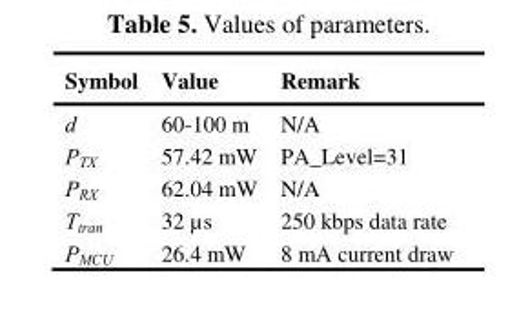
<table><thead><tr><td>Symbol</td><td>Value</td><td>Remark</td></tr></thead><tbody><tr><td>d</td><td>60-100 m</td><td>N/A</td></tr><tr><td>P<sub>TX</sub></td><td>57.42 mW</td><td>PA_Level=31</td></tr><tr><td>P<sub>RX</sub></td><td>62.04 mW</td><td>N/A</td></tr><tr><td>T<sub>tran</sub></td><td>32 µs</td><td>250 kbps data rate</td></tr><tr><td>P<sub>MCU</sub></td><td>26.4 mW</td><td>8 mA current draw</td></tr></tbody></table>